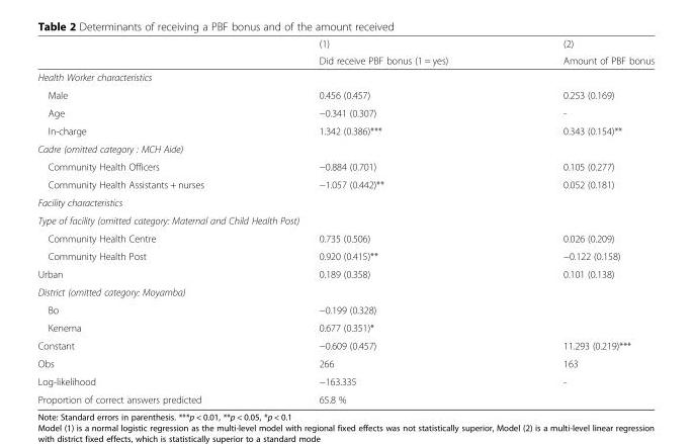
<table><thead><tr><td rowspan="2"></td><td rowspan="2">(1) Did receive PBF bonus (1 = yes)</td><td rowspan="2">(2) Amount of PBF bonus</td></tr><tr></tr></thead><tbody><tr><td colspan="3">Health Worker characteristics</td></tr><tr><td>Male</td><td>0.456 (0.457)</td><td>0.253 (0.169)</td></tr><tr><td>Age</td><td>−0.341 (0.307)</td><td>-</td></tr><tr><td>In-charge</td><td>1.342 (0.386)***</td><td>0.343 (0.154)**</td></tr><tr><td colspan="3">Cadre (omitted category : MCH Aide)</td></tr><tr><td>Community Health Officers</td><td>−0.884 (0.701)</td><td>0.105 (0.277)</td></tr><tr><td>Community Health Assistants + nurses</td><td>−1.057 (0.442)**</td><td>0.052 (0.181)</td></tr><tr><td colspan="3">Facility characteristics</td></tr><tr><td colspan="3">Type of facility (omitted category: Maternal and Child Health Post)</td></tr><tr><td>Community Health Centre</td><td>0.735 (0.506)</td><td>0.026 (0.209)</td></tr><tr><td>Community Health Post</td><td>0.920 (0.415)**</td><td>−0.122 (0.158)</td></tr><tr><td>Urban</td><td>0.189 (0.358)</td><td>0.101 (0.138)</td></tr><tr><td colspan="3">District (omitted category: Moyamba)</td></tr><tr><td>Bo</td><td>−0.199 (0.328)</td><td></td></tr><tr><td>Kenema</td><td>0.677 (0.351)*</td><td></td></tr><tr><td>Constant</td><td>−0.609 (0.457)</td><td>11.293 (0.219)***</td></tr><tr><td>Obs</td><td>266</td><td>163</td></tr><tr><td>Log-likelihood</td><td>−163.335</td><td>-</td></tr><tr><td>Proportion of correct answers predicted</td><td>65.8 %</td><td></td></tr></tbody></table>